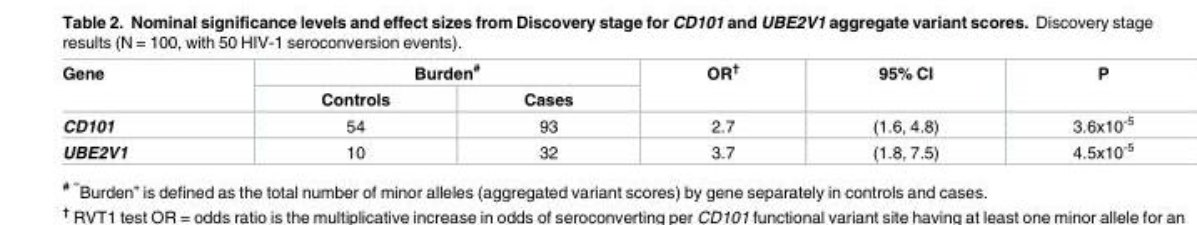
<table><thead><tr><td rowspan="2">Gene</td><td colspan="2">Burden<sup>#</sup></td><td rowspan="2">OR<sup>†</sup></td><td rowspan="2">95% CI</td><td rowspan="2">P</td></tr><tr><td>Controls</td><td>Cases</td></tr></thead><tbody><tr><td>CD101</td><td>54</td><td>93</td><td>2.7</td><td>(1.6, 4.8)</td><td>3.6x10<sup>-5</sup></td></tr><tr><td>UBE2V1</td><td>10</td><td>32</td><td>3.7</td><td>(1.8, 7.5)</td><td>4.5x10<sup>-5</sup></td></tr></tbody></table>